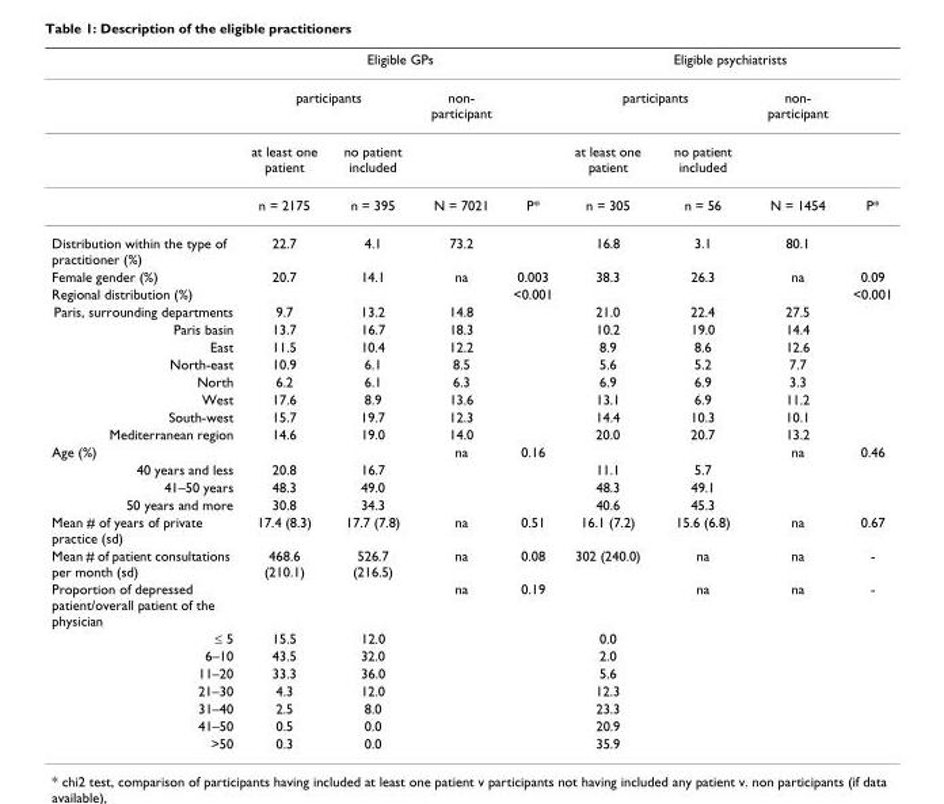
<table><thead><tr><td rowspan="3"></td><td colspan="4">Eligible GPs</td><td colspan="4">Eligible psychiatrists</td></tr><tr><td colspan="2">participants</td><td rowspan="2">non- participant</td><td rowspan="2"></td><td colspan="2">participants</td><td rowspan="2">non- participant</td><td rowspan="2"></td></tr><tr><td>at least one patient</td><td>no patient included</td><td>at least one patient</td><td>no patient included</td></tr></thead><tbody><tr><td></td><td>n = 2175</td><td>n = 395</td><td>N = 7021</td><td>P*</td><td>n = 305</td><td>n = 56</td><td>N = 1454</td><td>P*</td></tr><tr><td>Distribution within the type of practitioner (%)</td><td>22.7</td><td>4.1</td><td>73.2</td><td></td><td>16.8</td><td>3.1</td><td>80.1</td><td></td></tr><tr><td>Female gender (%)</td><td>20.7</td><td>14.1</td><td>na</td><td>0.003</td><td>38.3</td><td>26.3</td><td>na</td><td>0.09</td></tr><tr><td>Regional distribution (%)</td><td></td><td></td><td></td><td>&lt;0.001</td><td></td><td></td><td></td><td>&lt;0.001</td></tr><tr><td>Paris, surrounding departments</td><td>9.7</td><td>13.2</td><td>14.8</td><td></td><td>21.0</td><td>22.4</td><td>27.5</td><td></td></tr><tr><td>Paris basin</td><td>13.7</td><td>16.7</td><td>18.3</td><td></td><td>10.2</td><td>19.0</td><td>14.4</td><td></td></tr><tr><td>East</td><td>11.5</td><td>10.4</td><td>12.2</td><td></td><td>8.9</td><td>8.6</td><td>12.6</td><td></td></tr><tr><td>North-east</td><td>10.9</td><td>6.1</td><td>8.5</td><td></td><td>5.6</td><td>5.2</td><td>7.7</td><td></td></tr><tr><td>North</td><td>6.2</td><td>6.1</td><td>6.3</td><td></td><td>6.9</td><td>6.9</td><td>3.3</td><td></td></tr><tr><td>West</td><td>17.6</td><td>8.9</td><td>13.6</td><td></td><td>13.1</td><td>6.9</td><td>11.2</td><td></td></tr><tr><td>South-west</td><td>15.7</td><td>19.7</td><td>12.3</td><td></td><td>14.4</td><td>10.3</td><td>10.1</td><td></td></tr><tr><td>Mediterranean region</td><td>14.6</td><td>19.0</td><td>14.0</td><td></td><td>20.0</td><td>20.7</td><td>13.2</td><td></td></tr><tr><td>Age (%)</td><td></td><td></td><td>na</td><td>0.16</td><td></td><td></td><td>na</td><td>0.46</td></tr><tr><td>40 years and less</td><td>20.8</td><td>16.7</td><td></td><td></td><td>11.1</td><td>5.7</td><td></td><td></td></tr><tr><td>41–50 years</td><td>48.3</td><td>49.0</td><td></td><td></td><td>48.3</td><td>49.1</td><td></td><td></td></tr><tr><td>50 years and more</td><td>30.8</td><td>34.3</td><td></td><td></td><td>40.6</td><td>45.3</td><td></td><td></td></tr><tr><td>Mean # of years of private practice (sd)</td><td>17.4 (8.3)</td><td>17.7 (7.8)</td><td>na</td><td>0.51</td><td>16.1 (7.2)</td><td>15.6 (6.8)</td><td>na</td><td>0.67</td></tr><tr><td>Mean # of patient consultations per month (sd)</td><td>468.6 (210.1)</td><td>526.7 (216.5)</td><td>na</td><td>0.08</td><td>302 (240.0)</td><td>na</td><td>na</td><td>-</td></tr><tr><td>Proportion of depressed patient/overall patient of the physician</td><td></td><td></td><td>na</td><td>0.19</td><td></td><td>na</td><td>na</td><td>-</td></tr><tr><td>≤ 5</td><td>15.5</td><td>12.0</td><td></td><td></td><td>0.0</td><td></td><td></td><td></td></tr><tr><td>6–10</td><td>43.5</td><td>32.0</td><td></td><td></td><td>2.0</td><td></td><td></td><td></td></tr><tr><td>11–20</td><td>33.3</td><td>36.0</td><td></td><td></td><td>5.6</td><td></td><td></td><td></td></tr><tr><td>21–30</td><td>4.3</td><td>12.0</td><td></td><td></td><td>12.3</td><td></td><td></td><td></td></tr><tr><td>31–40</td><td>2.5</td><td>8.0</td><td></td><td></td><td>23.3</td><td></td><td></td><td></td></tr><tr><td>41–50</td><td>0.5</td><td>0.0</td><td></td><td></td><td>20.9</td><td></td><td></td><td></td></tr><tr><td>&gt;50</td><td>0.3</td><td>0.0</td><td></td><td></td><td>35.9</td><td></td><td></td><td></td></tr></tbody></table>